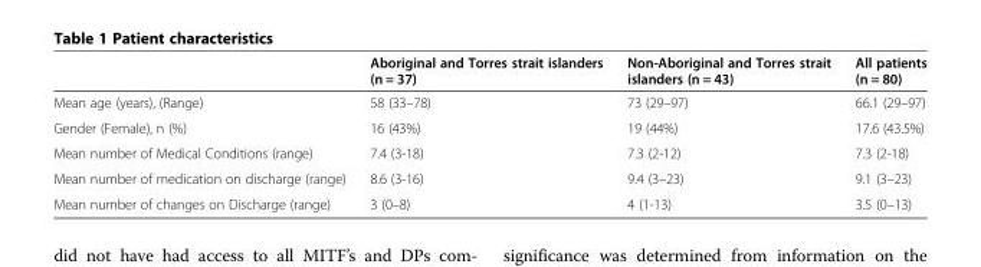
<table><thead><tr><td></td><td>Aboriginal and Torres strait islanders (n = 37)</td><td>Non-Aboriginal and Torres strait islanders (n = 43)</td><td>All patients (n = 80)</td></tr></thead><tbody><tr><td>Mean age (years), (Range)</td><td>58 (33–78)</td><td>73 (29–97)</td><td>66.1 (29–97)</td></tr><tr><td>Gender (Female), n (%)</td><td>16 (43%)</td><td>19 (44%)</td><td>17.6 (43.5%)</td></tr><tr><td>Mean number of Medical Conditions (range)</td><td>7.4 (3-18)</td><td>7.3 (2-12)</td><td>7.3 (2-18)</td></tr><tr><td>Mean number of medication on discharge (range)</td><td>8.6 (3-16)</td><td>9.4 (3–23)</td><td>9.1 (3–23)</td></tr><tr><td>Mean number of changes on Discharge (range)</td><td>3 (0–8)</td><td>4 (1-13)</td><td>3.5 (0–13)</td></tr></tbody></table>